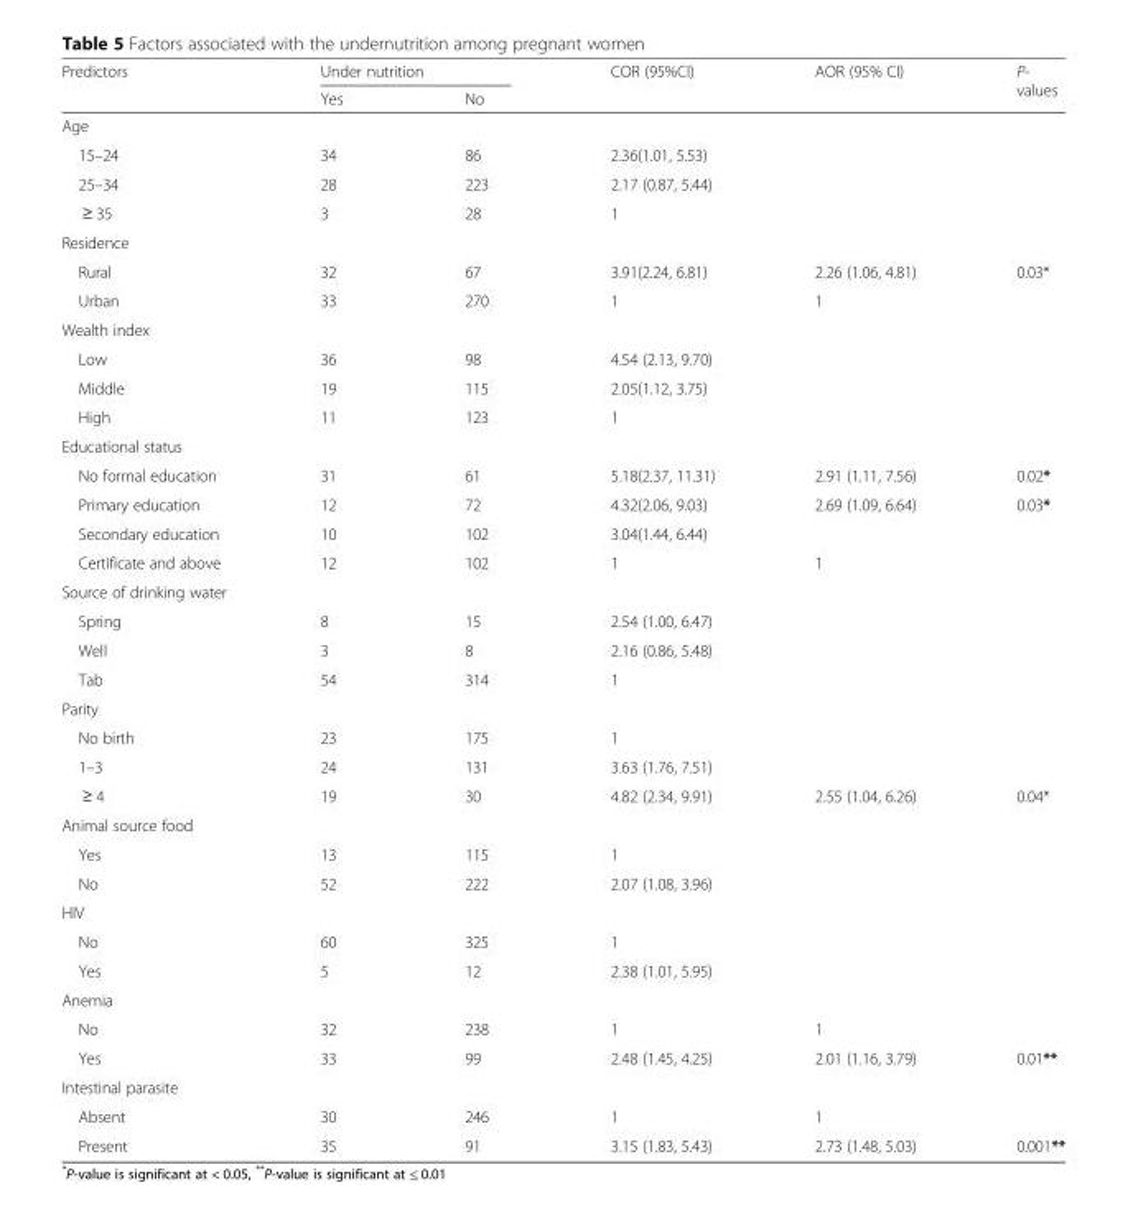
<table><thead><tr><td rowspan="2">Predictors</td><td colspan="2">Under nutrition</td><td rowspan="2">COR (95%CI)</td><td rowspan="2">AOR (95% CI)</td><td rowspan="2">P- values</td></tr><tr><td>Yes</td><td>No</td></tr></thead><tbody><tr><td colspan="6">Age</td></tr><tr><td>15–24</td><td>34</td><td>86</td><td>2.36(1.01, 5.53)</td><td></td><td></td></tr><tr><td>25–34</td><td>28</td><td>223</td><td>2.17 (0.87, 5.44)</td><td></td><td></td></tr><tr><td>≥ 35</td><td>3</td><td>28</td><td>1</td><td></td><td></td></tr><tr><td colspan="6">Residence</td></tr><tr><td>Rural</td><td>32</td><td>67</td><td>3.91(2.24, 6.81)</td><td>2.26 (1.06, 4.81)</td><td>0.03*</td></tr><tr><td>Urban</td><td>33</td><td>270</td><td>1</td><td>1</td><td></td></tr><tr><td colspan="6">Wealth index</td></tr><tr><td>Low</td><td>36</td><td>98</td><td>4.54 (2.13, 9.70)</td><td rowspan="3"></td><td rowspan="3"></td></tr><tr><td>Middle</td><td>19</td><td>115</td><td>2.05(1.12, 3.75)</td></tr><tr><td>High</td><td>11</td><td>123</td><td>1</td></tr><tr><td colspan="6">Educational status</td></tr><tr><td>No formal education</td><td>31</td><td>61</td><td>5.18(2.37, 11.31)</td><td>2.91 (1.11, 7.56)</td><td>0.02*</td></tr><tr><td>Primary education</td><td>12</td><td>72</td><td>4.32(2.06, 9.03)</td><td>2.69 (1.09, 6.64)</td><td>0.03*</td></tr><tr><td>Secondary education</td><td>10</td><td>102</td><td>3.04(1.44, 6.44)</td><td></td><td></td></tr><tr><td>Certificate and above</td><td>12</td><td>102</td><td>1</td><td>1</td><td></td></tr><tr><td colspan="6">Source of drinking water</td></tr><tr><td>Spring</td><td>8</td><td>15</td><td>2.54 (1.00, 6.47)</td><td></td><td></td></tr><tr><td>Well</td><td>3</td><td>8</td><td>2.16 (0.86, 5.48)</td><td></td><td></td></tr><tr><td>Tab</td><td>54</td><td>314</td><td>1</td><td></td><td></td></tr><tr><td colspan="6">Parity</td></tr><tr><td>No birth</td><td>23</td><td>175</td><td>1</td><td></td><td></td></tr><tr><td>1–3</td><td>24</td><td>131</td><td>3.63 (1.76, 7.51)</td><td></td><td></td></tr><tr><td>≥ 4</td><td>19</td><td>30</td><td>4.82 (2.34, 9.91)</td><td>2.55 (1.04, 6.26)</td><td>0.04*</td></tr><tr><td colspan="6">Animal source food</td></tr><tr><td>Yes</td><td>13</td><td>115</td><td>1</td><td></td><td></td></tr><tr><td>No</td><td>52</td><td>222</td><td>2.07 (1.08, 3.96)</td><td></td><td></td></tr><tr><td colspan="6">HIV</td></tr><tr><td>No</td><td>60</td><td>325</td><td>1</td><td></td><td></td></tr><tr><td>Yes</td><td>5</td><td>12</td><td>2.38 (1.01, 5.95)</td><td></td><td></td></tr><tr><td colspan="6">Anemia</td></tr><tr><td>No</td><td>32</td><td>238</td><td>1</td><td>1</td><td></td></tr><tr><td>Yes</td><td>33</td><td>99</td><td>2.48 (1.45, 4.25)</td><td>2.01 (1.16, 3.79)</td><td>0.01**</td></tr><tr><td colspan="6">Intestinal parasite</td></tr><tr><td>Absent</td><td>30</td><td>246</td><td>1</td><td>1</td><td></td></tr><tr><td>Present</td><td>35</td><td>91</td><td>3.15 (1.83, 5.43)</td><td>2.73 (1.48, 5.03)</td><td>0.001**</td></tr></tbody></table>